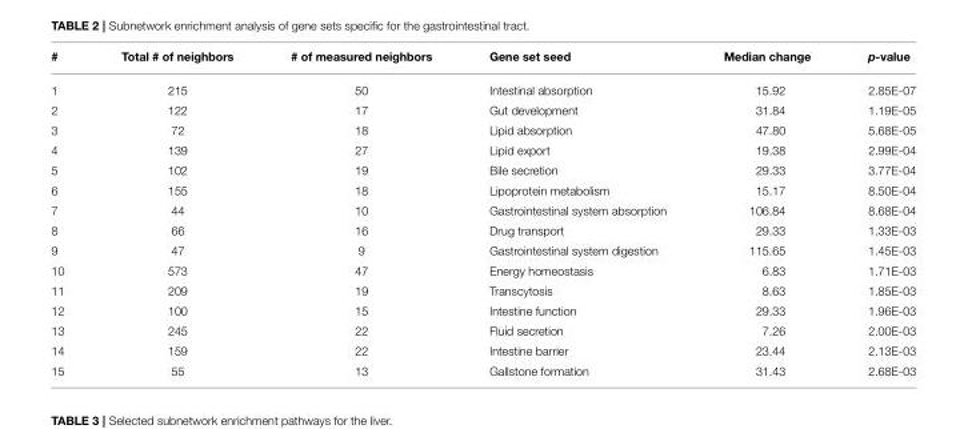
<table><thead><tr><td>#</td><td>Total # of neighbors</td><td># of measured neighbors</td><td>Gene set seed</td><td>Median change</td><td>p-value</td></tr></thead><tbody><tr><td>1</td><td>215</td><td>50</td><td>Intestinal absorption</td><td>15.92</td><td>2.85E-07</td></tr><tr><td>2</td><td>122</td><td>17</td><td>Gut development</td><td>31.84</td><td>1.19E-05</td></tr><tr><td>3</td><td>72</td><td>18</td><td>Lipid absorption</td><td>47.80</td><td>5.68E-05</td></tr><tr><td>4</td><td>139</td><td>27</td><td>Lipid export</td><td>19.38</td><td>2.99E-04</td></tr><tr><td>5</td><td>102</td><td>19</td><td>Bile secretion</td><td>29.33</td><td>3.77E-04</td></tr><tr><td>6</td><td>155</td><td>18</td><td>Lipoprotein metabolism</td><td>15.17</td><td>8.50E-04</td></tr><tr><td>7</td><td>44</td><td>10</td><td>Gastrointestinal system absorption</td><td>106.84</td><td>8.68E-04</td></tr><tr><td>8</td><td>66</td><td>16</td><td>Drug transport</td><td>29.33</td><td>1.33E-03</td></tr><tr><td>9</td><td>47</td><td>9</td><td>Gastrointestinal system digestion</td><td>115.65</td><td>1.45E-03</td></tr><tr><td>10</td><td>573</td><td>47</td><td>Energy homeostasis</td><td>6.83</td><td>1.71E-03</td></tr><tr><td>11</td><td>209</td><td>19</td><td>Transcytosis</td><td>8.63</td><td>1.85E-03</td></tr><tr><td>12</td><td>100</td><td>15</td><td>Intestine function</td><td>29.33</td><td>1.96E-03</td></tr><tr><td>13</td><td>245</td><td>22</td><td>Fluid secretion</td><td>7.26</td><td>2.00E-03</td></tr><tr><td>14</td><td>159</td><td>22</td><td>Intestine barrier</td><td>23.44</td><td>2.13E-03</td></tr><tr><td>15</td><td>55</td><td>13</td><td>Gallstone formation</td><td>31.43</td><td>2.68E-03</td></tr></tbody></table>